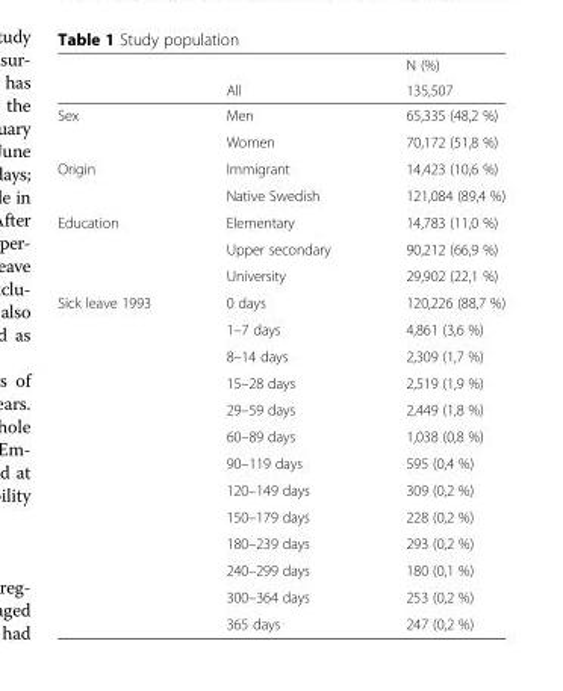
<table><thead><tr><td rowspan="2"></td><td rowspan="2">All</td><td rowspan="2">N (%) 135,507</td></tr><tr></tr></thead><tbody><tr><td rowspan="2">Sex</td><td>Men</td><td>65,335 (48,2 %)</td></tr><tr><td>Women</td><td>70,172 (51,8 %)</td></tr><tr><td rowspan="2">Origin</td><td>Immigrant</td><td>14,423 (10,6 %)</td></tr><tr><td>Native Swedish</td><td>121,084 (89,4 %)</td></tr><tr><td rowspan="3">Education</td><td>Elementary</td><td>14,783 (11,0 %)</td></tr><tr><td>Upper secondary</td><td>90,212 (66,9 %)</td></tr><tr><td>University</td><td>29,902 (22,1 %)</td></tr><tr><td rowspan="13">Sick leave 1993</td><td>0 days</td><td>120,226 (88,7 %)</td></tr><tr><td>1–7 days</td><td>4,861 (3,6 %)</td></tr><tr><td>8–14 days</td><td>2,309 (1,7 %)</td></tr><tr><td>15–28 days</td><td>2,519 (1,9 %)</td></tr><tr><td>29–59 days</td><td>2,449 (1,8 %)</td></tr><tr><td>60–89 days</td><td>1,038 (0,8 %)</td></tr><tr><td>90–119 days</td><td>595 (0,4 %)</td></tr><tr><td>120–149 days</td><td>309 (0,2 %)</td></tr><tr><td>150–179 days</td><td>228 (0,2 %)</td></tr><tr><td>180–239 days</td><td>293 (0,2 %)</td></tr><tr><td>240–299 days</td><td>180 (0,1 %)</td></tr><tr><td>300–364 days</td><td>253 (0,2 %)</td></tr><tr><td>365 days</td><td>247 (0,2 %)</td></tr></tbody></table>